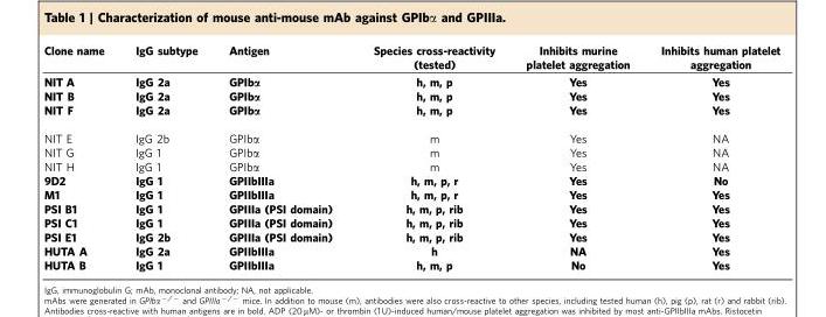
<table><thead><tr><td>Clone name</td><td>IgG subtype</td><td>Antigen</td><td>Species cross-reactivity (tested)</td><td>Inhibits murine platelet aggregation</td><td>Inhibits human platelet aggregation</td></tr></thead><tbody><tr><td>NIT A</td><td>IgG 2a</td><td>GPIbα</td><td>h, m, p</td><td>Yes</td><td>Yes</td></tr><tr><td>NIT B</td><td>IgG 2a</td><td>GPIbα</td><td>h, m, p</td><td>Yes</td><td>Yes</td></tr><tr><td>NIT F</td><td>IgG 2a</td><td>GPIbα</td><td>h, m, p</td><td>Yes</td><td>Yes</td></tr><tr><td>NIT E</td><td>IgG 2b</td><td>GPIbα</td><td>m</td><td>Yes</td><td>NA</td></tr><tr><td>NIT G</td><td>IgG 1</td><td>GPIbα</td><td>m</td><td>Yes</td><td>NA</td></tr><tr><td>NIT H</td><td>IgG 1</td><td>GPIbα</td><td>m</td><td>Yes</td><td>NA</td></tr><tr><td>9D2</td><td>IgG 1</td><td>GPIIbIIIa</td><td>h, m, p, r</td><td>Yes</td><td>No</td></tr><tr><td>M1</td><td>IgG 1</td><td>GPIIbIIIa</td><td>h, m, p, r</td><td>Yes</td><td>Yes</td></tr><tr><td>PSI B1</td><td>IgG 1</td><td>GPIIIa (PSI domain)</td><td>h, m, p, rib</td><td>Yes</td><td>Yes</td></tr><tr><td>PSI C1</td><td>IgG 1</td><td>GPIIIa (PSI domain)</td><td>h, m, p, rib</td><td>Yes</td><td>Yes</td></tr><tr><td>PSI E1</td><td>IgG 2b</td><td>GPIIIa (PSI domain)</td><td>h, m, p, rib</td><td>Yes</td><td>Yes</td></tr><tr><td>HUTA A</td><td>IgG 2a</td><td>GPIIbIIIa</td><td>h</td><td>NA</td><td>Yes</td></tr><tr><td>HUTA B</td><td>IgG 1</td><td>GPIIbIIIa</td><td>h, m, p</td><td>No</td><td>Yes</td></tr></tbody></table>